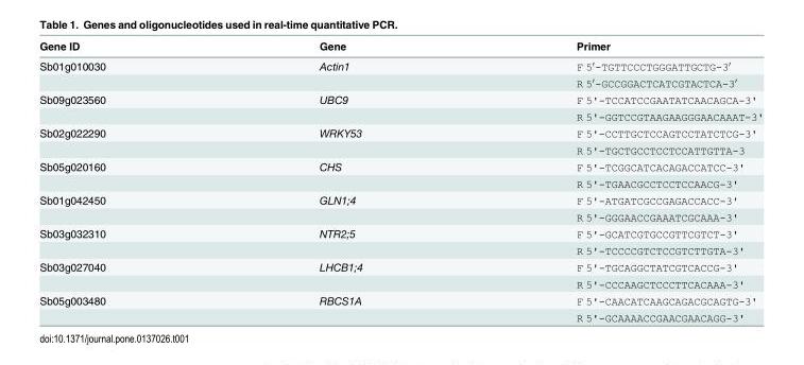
<table><thead><tr><td>Gene ID</td><td>Gene</td><td>Primer</td></tr></thead><tbody><tr><td rowspan="2">Sb01g010030</td><td>Actin1</td><td>F 5′-TGTTCCCTGGGATTGCTG-3′</td></tr><tr><td></td><td>R 5′-GCCGGACTCATCGTACTCA-3′</td></tr><tr><td rowspan="2">Sb09g023560</td><td>UBC9</td><td>F 5&#x27;-TCCATCCGAATATCAACAGCA-3&#x27;</td></tr><tr><td></td><td>R 5&#x27;-GGTCCGTAAGAAGGGAACAAAT-3&#x27;</td></tr><tr><td rowspan="2">Sb02g022290</td><td>WRKY53</td><td>F 5&#x27;-CCTTGCTCCAGTCCTATCTCG-3&#x27;</td></tr><tr><td></td><td>R 5&#x27;-TGCTGCCTCCTCCATTGTTA-3</td></tr><tr><td rowspan="2">Sb05g020160</td><td>CHS</td><td>F 5&#x27;-TCGGCATCACAGACCATCC-3&#x27;</td></tr><tr><td></td><td>R 5&#x27;-TGAACGCCTCCTCCAACG-3&#x27;</td></tr><tr><td rowspan="2">Sb01g042450</td><td>GLN1;4</td><td>F 5&#x27;-ATGATCGCCGAGACCACC-3&#x27;</td></tr><tr><td></td><td>R 5&#x27;-GGGAACCGAAATCGCAAA-3&#x27;</td></tr><tr><td rowspan="2">Sb03g032310</td><td>NTR2;5</td><td>F 5&#x27;-GCATCGTGCCGTTCGTCT-3&#x27;</td></tr><tr><td></td><td>R 5&#x27;-TCCCCGTCTCCGTCTTGTA-3&#x27;</td></tr><tr><td rowspan="2">Sb03g027040</td><td>LHCB1;4</td><td>F 5&#x27;-TGCAGGCTATCGTCACCG-3&#x27;</td></tr><tr><td></td><td>R 5&#x27;-CCCAAGCTCCCTTCACAAA-3&#x27;</td></tr><tr><td rowspan="2">Sb05g003480</td><td>RBCS1A</td><td>F 5&#x27;-CAACATCAAGCAGACGCAGTG-3&#x27;</td></tr><tr><td></td><td>R 5&#x27;-GCAAAACCGAACGAACAGG-3&#x27;</td></tr></tbody></table>